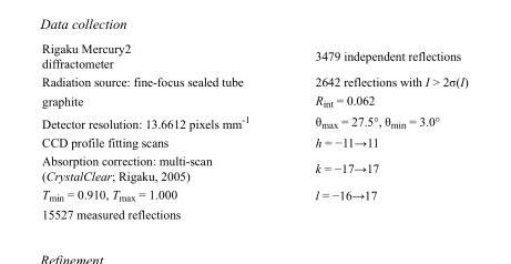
<table><tbody><tr><td>Rigaku Mercury2 diffractometer</td><td>3479 independent reflections</td></tr><tr><td>Radiation source: fine-focus sealed tube</td><td>2642 reflections with I &gt; 2σ(I)</td></tr><tr><td>graphite</td><td>R<sub>int</sub> = 0.062</td></tr><tr><td>Detector resolution: 13.6612 pixels mm<sup>-1</sup></td><td>θ<sub>max</sub> = 27.5°, θ<sub>min</sub> = 3.0°</td></tr><tr><td>CCD profile fitting scans</td><td>h = −11→11</td></tr><tr><td>Absorption correction: multi-scan (CrystalClear; Rigaku, 2005)</td><td>k = −17→17</td></tr><tr><td>T<sub>min</sub> = 0.910, T<sub>max</sub> = 1.000</td><td>l = −16→17</td></tr><tr><td>15527 measured reflections</td><td></td></tr></tbody></table>